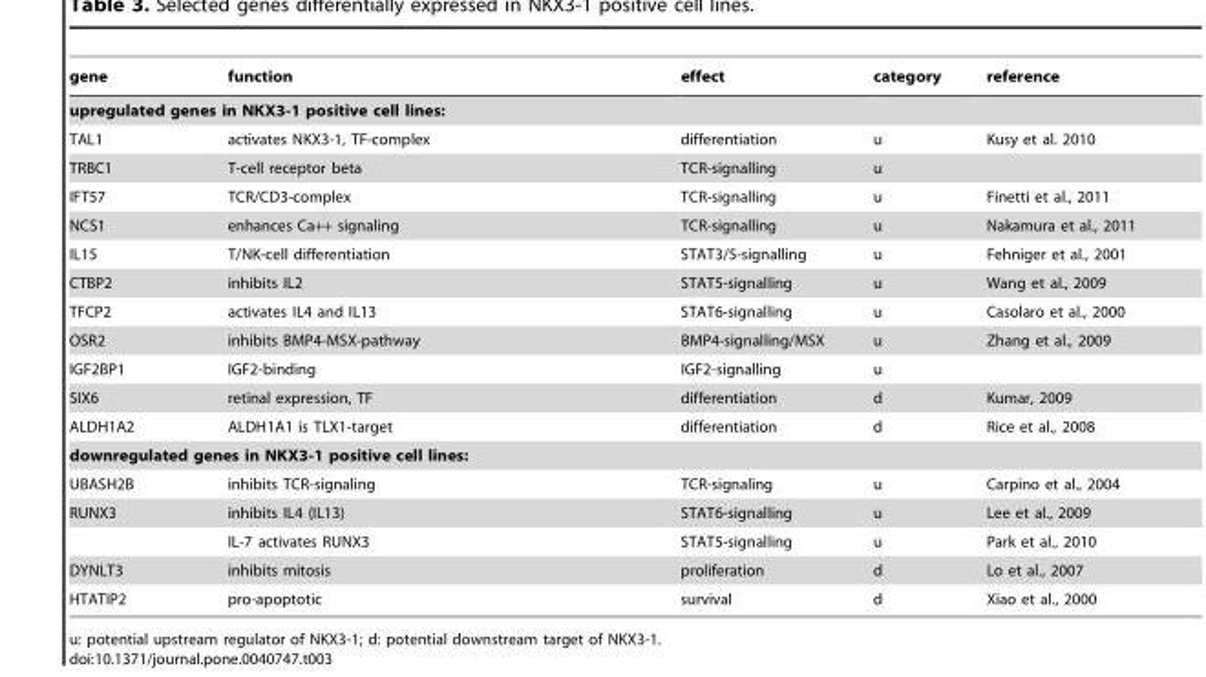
<table><thead><tr><td>gene</td><td>function</td><td>effect</td><td>category</td><td>reference</td></tr></thead><tbody><tr><td colspan="5">upregulated genes in NKX3-1 positive cell lines:</td></tr><tr><td>TAL1</td><td>activates NKX3-1, TF-complex</td><td>differentiation</td><td>u</td><td>Kusy et al. 2010</td></tr><tr><td>TRBC1</td><td>T-cell receptor beta</td><td>TCR-signalling</td><td>u</td><td></td></tr><tr><td>IFT57</td><td>TCR/CD3-complex</td><td>TCR-signalling</td><td>u</td><td>Finetti et al., 2011</td></tr><tr><td>NCS1</td><td>enhances Ca++ signaling</td><td>TCR-signalling</td><td>u</td><td>Nakamura et al., 2011</td></tr><tr><td>IL15</td><td>T/NK-cell differentiation</td><td>STAT3/5-signalling</td><td>u</td><td>Fehniger et al., 2001</td></tr><tr><td>CTBP2</td><td>inhibits IL2</td><td>STAT5-signalling</td><td>u</td><td>Wang et al., 2009</td></tr><tr><td>TFCP2</td><td>activates IL4 and IL13</td><td>STAT6-signalling</td><td>u</td><td>Casolaro et al., 2000</td></tr><tr><td>OSR2</td><td>inhibits BMP4-MSX-pathway</td><td>BMP4-signalling/MSX</td><td>u</td><td>Zhang et al., 2009</td></tr><tr><td>IGF2BP1</td><td>IGF2-binding</td><td>IGF2-signalling</td><td>u</td><td></td></tr><tr><td>SIX6</td><td>retinal expression, TF</td><td>differentiation</td><td>d</td><td>Kumar, 2009</td></tr><tr><td>ALDH1A2</td><td>ALDH1A1 is TLX1-target</td><td>differentiation</td><td>d</td><td>Rice et al., 2008</td></tr><tr><td colspan="5">downregulated genes in NKX3-1 positive cell lines:</td></tr><tr><td>UBASH2B</td><td>inhibits TCR-signaling</td><td>TCR-signaling</td><td>u</td><td>Carpino et al., 2004</td></tr><tr><td rowspan="2">RUNX3</td><td>inhibits IL4 (IL13)</td><td>STAT6-signalling</td><td>u</td><td>Lee et al., 2009</td></tr><tr><td>IL-7 activates RUNX3</td><td>STAT5-signalling</td><td>u</td><td>Park et al., 2010</td></tr><tr><td>DYNLT3</td><td>inhibits mitosis</td><td>proliferation</td><td>d</td><td>Lo et al., 2007</td></tr><tr><td>HTATIP2</td><td>pro-apoptotic</td><td>survival</td><td>d</td><td>Xiao et al., 2000</td></tr></tbody></table>